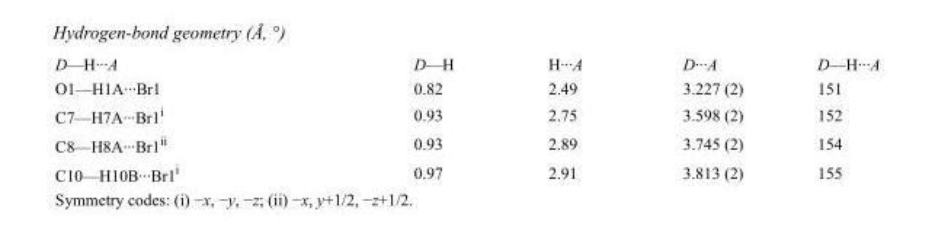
<table><tbody><tr><td>D—H···A</td><td>D—H</td><td>H···A</td><td>D···A</td><td>D—H···A</td></tr><tr><td>O1—H1A···Br1</td><td>0.82</td><td>2.49</td><td>3.227 (2)</td><td>151</td></tr><tr><td>C7—H7A···Br1<sup>i</sup></td><td>0.93</td><td>2.75</td><td>3.598 (2)</td><td>152</td></tr><tr><td>C8—H8A···Br1<sup>ii</sup></td><td>0.93</td><td>2.89</td><td>3.745 (2)</td><td>154</td></tr><tr><td>C10—H10B···Br1<sup>i</sup></td><td>0.97</td><td>2.91</td><td>3.813 (2)</td><td>155</td></tr></tbody></table>